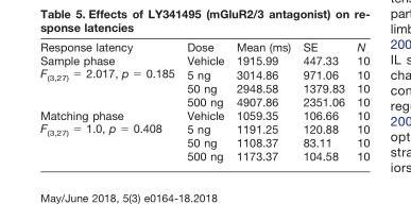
<table><thead><tr><td>Response latency</td><td>Dose</td><td>Mean (ms)</td><td>SE</td><td>N</td></tr></thead><tbody><tr><td rowspan="4">Sample phase F<sub>(3,27)</sub> = 2.017, p = 0.185</td><td>Vehicle</td><td>1915.99</td><td>447.33</td><td>10</td></tr><tr><td>5 ng</td><td>3014.86</td><td>971.06</td><td>10</td></tr><tr><td>50 ng</td><td>2948.58</td><td>1379.83</td><td>10</td></tr><tr><td>500 ng</td><td>4907.86</td><td>2351.06</td><td>10</td></tr><tr><td rowspan="4">Matching phase F<sub>(3,27)</sub> = 1.0, p = 0.408</td><td>Vehicle</td><td>1059.35</td><td>106.66</td><td>10</td></tr><tr><td>5 ng</td><td>1191.25</td><td>120.88</td><td>10</td></tr><tr><td>50 ng</td><td>1108.37</td><td>83.11</td><td>10</td></tr><tr><td>500 ng</td><td>1173.37</td><td>104.58</td><td>10</td></tr></tbody></table>